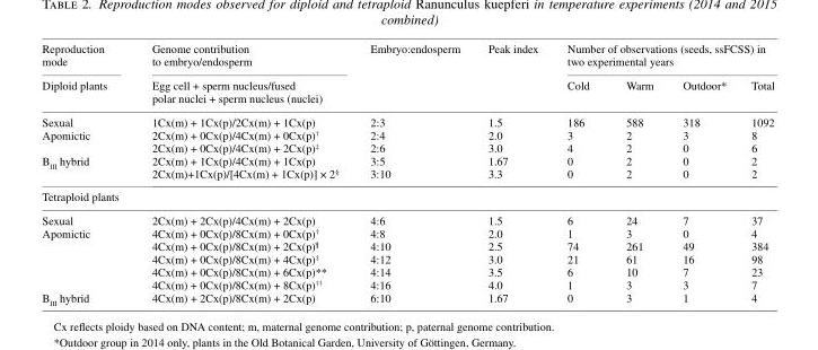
<table><thead><tr><td rowspan="2">Reproduction mode Diploid plants</td><td rowspan="2">Genome contribution to embryo/endosperm Egg cell + sperm nucleus/fused polar nuclei + sperm nucleus (nuclei)</td><td rowspan="2">Embryo:endosperm</td><td rowspan="2">Peak index</td><td colspan="4">Number of observations (seeds, ssFCSS) in two experimental years</td></tr><tr><td>Cold</td><td>Warm</td><td>Outdoor*</td><td>Total</td></tr></thead><tbody><tr><td>Sexual</td><td>1Cx(m) + 1Cx(p)/2Cx(m) + 1Cx(p)</td><td>2:3</td><td>1.5</td><td>186</td><td>588</td><td>318</td><td>1092</td></tr><tr><td rowspan="2">Apomictic</td><td>2Cx(m) + 0Cx(p)/4Cx(m) + 0Cx(p)<sup>†</sup></td><td>2:4</td><td>2.0</td><td>3</td><td>2</td><td>3</td><td>8</td></tr><tr><td>2Cx(m) + 0Cx(p)/4Cx(m) + 2Cx(p)<sup>‡</sup></td><td>2:6</td><td>3.0</td><td>4</td><td>2</td><td>0</td><td>6</td></tr><tr><td rowspan="2">B<sub>III</sub> hybrid</td><td>2Cx(m) + 1Cx(p)/4Cx(m) + 1Cx(p)</td><td>3:5</td><td>1.67</td><td>0</td><td>2</td><td>0</td><td>2</td></tr><tr><td>2Cx(m)+1Cx(p)/[4Cx(m) + 1Cx(p)] × 2<sup>§</sup></td><td>3:10</td><td>3.3</td><td>0</td><td>2</td><td>0</td><td>2</td></tr><tr><td colspan="8">Tetraploid plants</td></tr><tr><td>Sexual</td><td>2Cx(m) + 2Cx(p)/4Cx(m) + 2Cx(p)</td><td>4:6</td><td>1.5</td><td>6</td><td>24</td><td>7</td><td>37</td></tr><tr><td rowspan="5">Apomictic</td><td>4Cx(m) + 0Cx(p)/8Cx(m) + 0Cx(p)<sup>†</sup></td><td>4:8</td><td>2.0</td><td>1</td><td>3</td><td>0</td><td>4</td></tr><tr><td>4Cx(m) + 0Cx(p)/8Cx(m) + 2Cx(p)<sup>¶</sup></td><td>4:10</td><td>2.5</td><td>74</td><td>261</td><td>49</td><td>384</td></tr><tr><td>4Cx(m) + 0Cx(p)/8Cx(m) + 4Cx(p)<sup>‡</sup></td><td>4:12</td><td>3.0</td><td>21</td><td>61</td><td>16</td><td>98</td></tr><tr><td>4Cx(m) + 0Cx(p)/8Cx(m) + 6Cx(p)**</td><td>4:14</td><td>3.5</td><td>6</td><td>10</td><td>7</td><td>23</td></tr><tr><td>4Cx(m) + 0Cx(p)/8Cx(m) + 8Cx(p)<sup>††</sup></td><td>4:16</td><td>4.0</td><td>1</td><td>3</td><td>3</td><td>7</td></tr><tr><td>B<sub>III</sub> hybrid</td><td>4Cx(m) + 2Cx(p)/8Cx(m) + 2Cx(p)</td><td>6:10</td><td>1.67</td><td>0</td><td>3</td><td>1</td><td>4</td></tr></tbody></table>